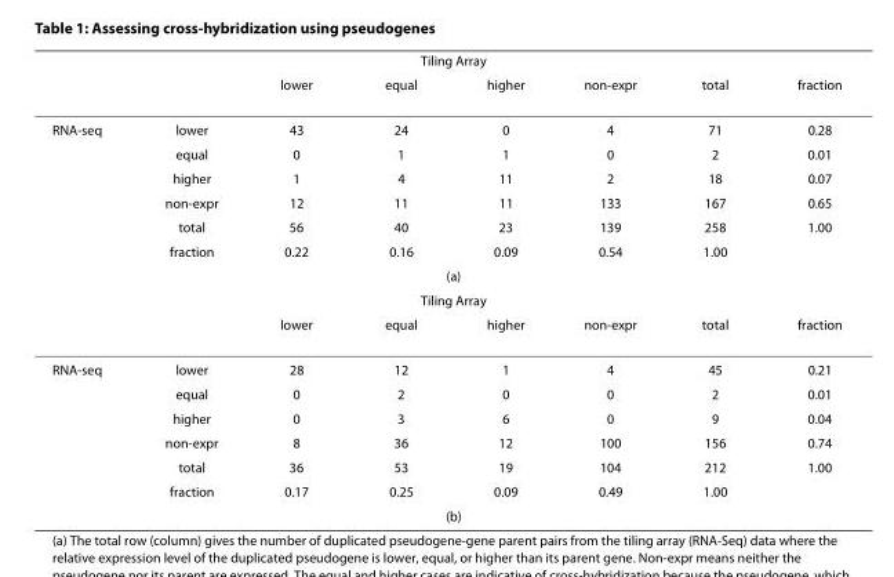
<table><thead><tr><td rowspan="2"></td><td rowspan="2"></td><td colspan="4">Tiling Array</td><td rowspan="2">total</td><td rowspan="2">fraction</td></tr><tr><td>lower</td><td>equal</td><td>higher</td><td>non-expr</td></tr></thead><tbody><tr><td rowspan="9">RNA-seq</td><td>lower</td><td>43</td><td>24</td><td>0</td><td>4</td><td>71</td><td>0.28</td></tr><tr><td>equal</td><td>0</td><td>1</td><td>1</td><td>0</td><td>2</td><td>0.01</td></tr><tr><td>higher</td><td>1</td><td>4</td><td>11</td><td>2</td><td>18</td><td>0.07</td></tr><tr><td>non-expr</td><td>12</td><td>11</td><td>11</td><td>133</td><td>167</td><td>0.65</td></tr><tr><td>total</td><td>56</td><td>40</td><td>23</td><td>139</td><td>258</td><td>1.00</td></tr><tr><td>fraction</td><td>0.22</td><td>0.16</td><td>0.09</td><td>0.54</td><td>1.00</td><td></td></tr><tr><td></td><td colspan="4">(a)</td><td></td><td></td></tr><tr><td></td><td colspan="4">Tiling Array</td><td></td><td></td></tr><tr><td></td><td>lower</td><td>equal</td><td>higher</td><td>non-expr</td><td>total</td><td>fraction</td></tr><tr><td rowspan="7">RNA-seq</td><td>lower</td><td>28</td><td>12</td><td>1</td><td>4</td><td>45</td><td>0.21</td></tr><tr><td>equal</td><td>0</td><td>2</td><td>0</td><td>0</td><td>2</td><td>0.01</td></tr><tr><td>higher</td><td>0</td><td>3</td><td>6</td><td>0</td><td>9</td><td>0.04</td></tr><tr><td>non-expr</td><td>8</td><td>36</td><td>12</td><td>100</td><td>156</td><td>0.74</td></tr><tr><td>total</td><td>36</td><td>53</td><td>19</td><td>104</td><td>212</td><td>1.00</td></tr><tr><td>fraction</td><td>0.17</td><td>0.25</td><td>0.09</td><td>0.49</td><td>1.00</td><td></td></tr><tr><td></td><td colspan="4">(b)</td><td></td><td></td></tr></tbody></table>